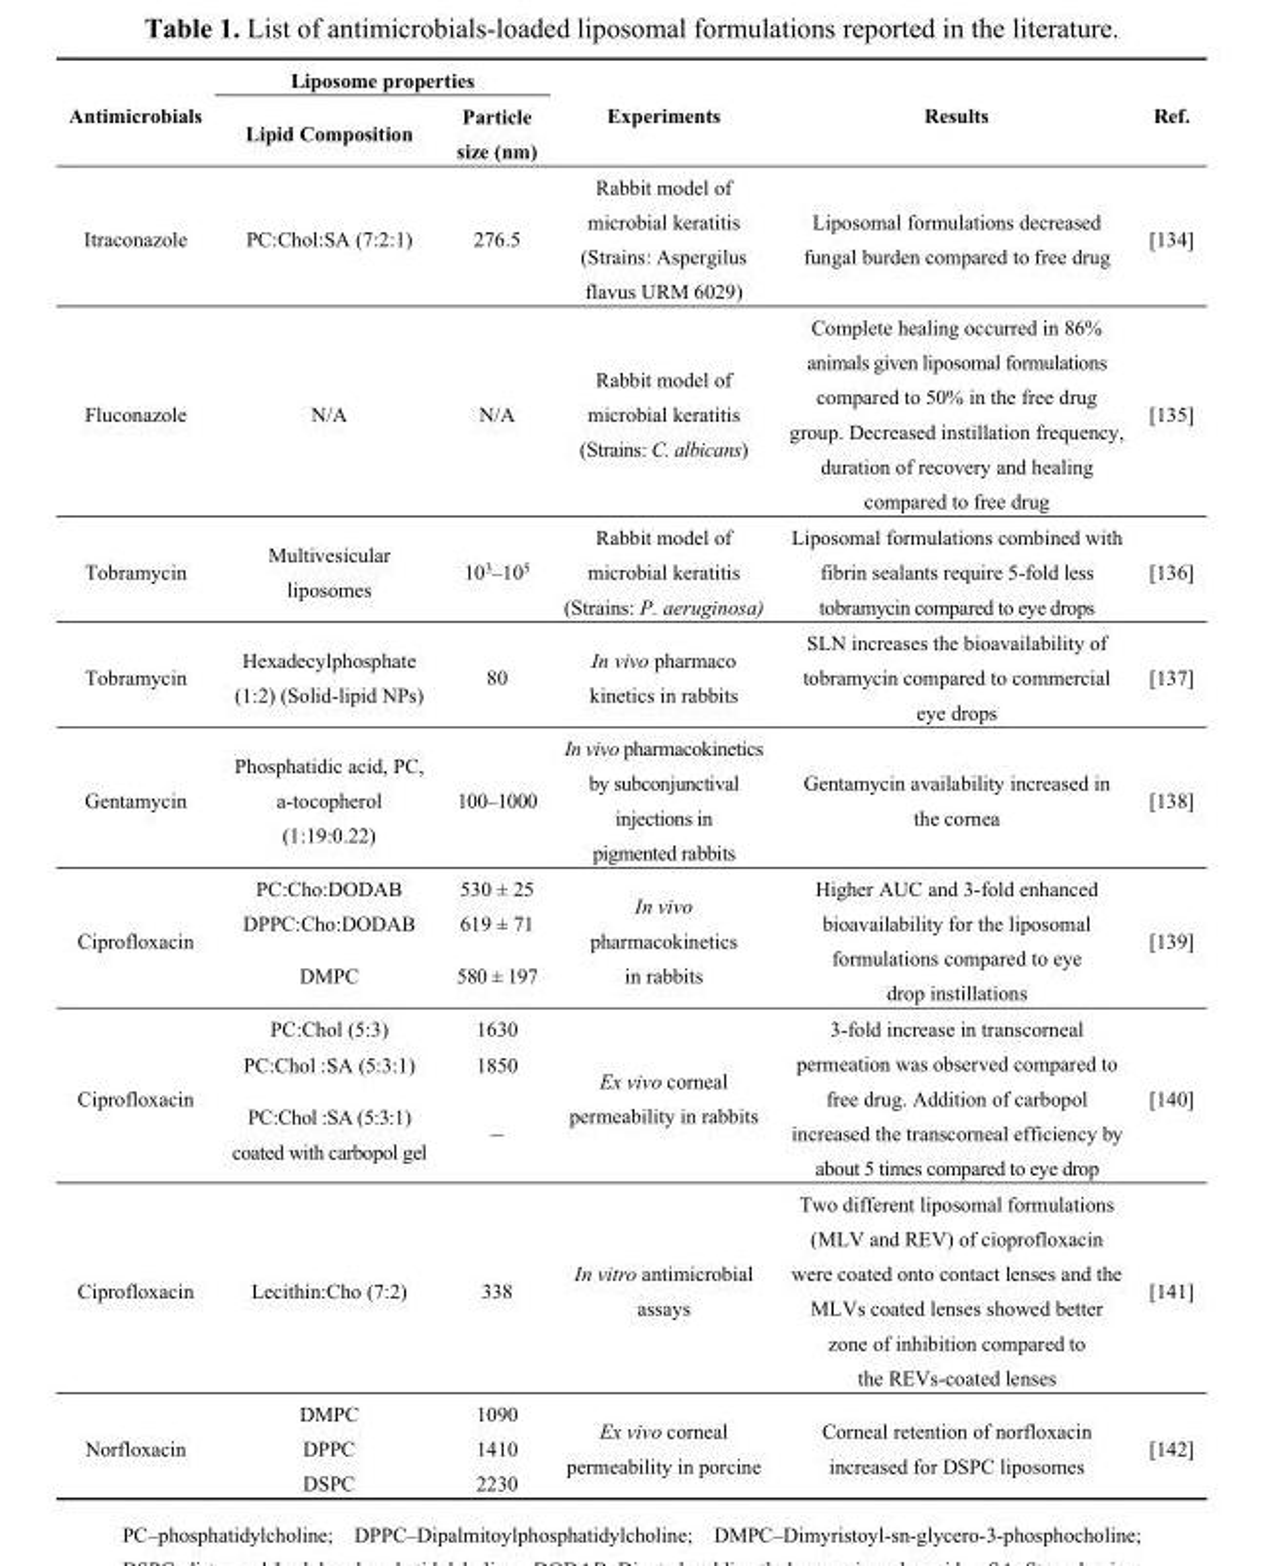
<table><thead><tr><td rowspan="2">Antimicrobials</td><td colspan="2">Liposome properties</td><td rowspan="2">Experiments</td><td rowspan="2">Results</td><td rowspan="2">Ref.</td></tr><tr><td>Lipid Composition</td><td>Particle size (nm)</td></tr></thead><tbody><tr><td>Itraconazole</td><td>PC:Chol:SA (7:2:1)</td><td>276.5</td><td>Rabbit model of microbial keratitis (Strains: Aspergilus flavus URM 6029)</td><td>Liposomal formulations decreased fungal burden compared to free drug</td><td>[134]</td></tr><tr><td>Fluconazole</td><td>N/A</td><td>N/A</td><td>Rabbit model of microbial keratitis (Strains: C. albicans)</td><td>Complete healing occurred in 86% animals given liposomal formulations compared to 50% in the free drug group. Decreased instillation frequency, duration of recovery and healing compared to free drug</td><td>[135]</td></tr><tr><td>Tobramycin</td><td>Multivesicular liposomes</td><td>10<sup>3</sup>–10<sup>5</sup></td><td>Rabbit model of microbial keratitis (Strains: P. aeruginosa)</td><td>Liposomal formulations combined with fibrin sealants require 5-fold less tobramycin compared to eye drops</td><td>[136]</td></tr><tr><td>Tobramycin</td><td>Hexadecylphosphate (1:2) (Solid-lipid NPs)</td><td>80</td><td>In vivo pharmaco kinetics in rabbits</td><td>SLN increases the bioavailability of tobramycin compared to commercial eye drops</td><td>[137]</td></tr><tr><td>Gentamycin</td><td>Phosphatidic acid, PC, a-tocopherol (1:19:0.22)</td><td>100–1000</td><td>In vivo pharmacokinetics by subconjunctival injections in pigmented rabbits</td><td>Gentamycin availability increased in the cornea</td><td>[138]</td></tr><tr><td rowspan="3">Ciprofloxacin</td><td>PC:Cho:DODAB</td><td>530 ± 25</td><td rowspan="3">In vivo pharmacokinetics in rabbits</td><td rowspan="3">Higher AUC and 3-fold enhanced bioavailability for the liposomal formulations compared to eye drop instillations</td><td rowspan="3">[139]</td></tr><tr><td>DPPC:Cho:DODAB</td><td>619 ± 71</td></tr><tr><td>DMPC</td><td>580 ± 197</td></tr><tr><td rowspan="3">Ciprofloxacin</td><td>PC:Chol (5:3)</td><td>1630</td><td rowspan="3">Ex vivo corneal permeability in rabbits</td><td rowspan="3">3-fold increase in transcorneal permeation was observed compared to free drug. Addition of carbopol increased the transcorneal efficiency by about 5 times compared to eye drop</td><td rowspan="3">[140]</td></tr><tr><td>PC:Chol :SA (5:3:1)</td><td>1850</td></tr><tr><td>PC:Chol :SA (5:3:1) coated with carbopol gel</td><td>–</td></tr><tr><td>Ciprofloxacin</td><td>Lecithin:Cho (7:2)</td><td>338</td><td>In vitro antimicrobial assays</td><td>Two different liposomal formulations (MLV and REV) of cioprofloxacin were coated onto contact lenses and the MLVs coated lenses showed better zone of inhibition compared to the REVs-coated lenses</td><td>[141]</td></tr><tr><td rowspan="3">Norfloxacin</td><td>DMPC</td><td>1090</td><td rowspan="3">Ex vivo corneal permeability in porcine</td><td rowspan="3">Corneal retention of norfloxacin increased for DSPC liposomes</td><td rowspan="3">[142]</td></tr><tr><td>DPPC</td><td>1410</td></tr><tr><td>DSPC</td><td>2230</td></tr></tbody></table>